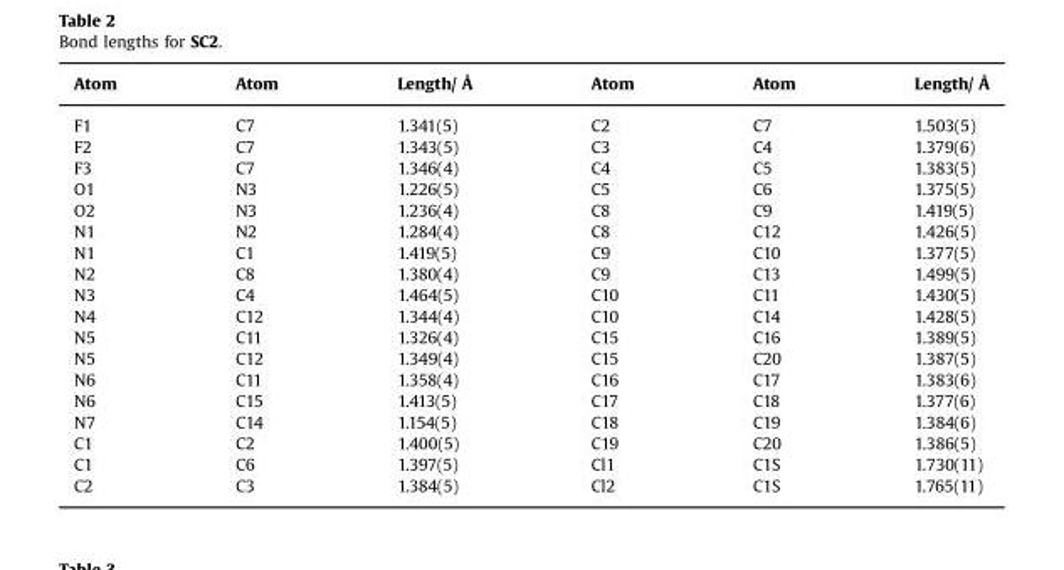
<table><thead><tr><td>Atom</td><td>Atom</td><td>Length/ Å</td><td>Atom</td><td>Atom</td><td>Length/ Å</td></tr></thead><tbody><tr><td>F1</td><td>C7</td><td>1.341(5)</td><td>C2</td><td>C7</td><td>1.503(5)</td></tr><tr><td>F2</td><td>C7</td><td>1.343(5)</td><td>C3</td><td>C4</td><td>1.379(6)</td></tr><tr><td>F3</td><td>C7</td><td>1.346(4)</td><td>C4</td><td>C5</td><td>1.383(5)</td></tr><tr><td>O1</td><td>N3</td><td>1.226(5)</td><td>C5</td><td>C6</td><td>1.375(5)</td></tr><tr><td>O2</td><td>N3</td><td>1.236(4)</td><td>C8</td><td>C9</td><td>1.419(5)</td></tr><tr><td>N1</td><td>N2</td><td>1.284(4)</td><td>C8</td><td>C12</td><td>1.426(5)</td></tr><tr><td>N1</td><td>C1</td><td>1.419(5)</td><td>C9</td><td>C10</td><td>1.377(5)</td></tr><tr><td>N2</td><td>C8</td><td>1.380(4)</td><td>C9</td><td>C13</td><td>1.499(5)</td></tr><tr><td>N3</td><td>C4</td><td>1.464(5)</td><td>C10</td><td>C11</td><td>1.430(5)</td></tr><tr><td>N4</td><td>C12</td><td>1.344(4)</td><td>C10</td><td>C14</td><td>1.428(5)</td></tr><tr><td>N5</td><td>C11</td><td>1.326(4)</td><td>C15</td><td>C16</td><td>1.389(5)</td></tr><tr><td>N5</td><td>C12</td><td>1.349(4)</td><td>C15</td><td>C20</td><td>1.387(5)</td></tr><tr><td>N6</td><td>C11</td><td>1.358(4)</td><td>C16</td><td>C17</td><td>1.383(6)</td></tr><tr><td>N6</td><td>C15</td><td>1.413(5)</td><td>C17</td><td>C18</td><td>1.377(6)</td></tr><tr><td>N7</td><td>C14</td><td>1.154(5)</td><td>C18</td><td>C19</td><td>1.384(6)</td></tr><tr><td>C1</td><td>C2</td><td>1.400(5)</td><td>C19</td><td>C20</td><td>1.386(5)</td></tr><tr><td>C1</td><td>C6</td><td>1.397(5)</td><td>Cl1</td><td>C1S</td><td>1.730(11)</td></tr><tr><td>C2</td><td>C3</td><td>1.384(5)</td><td>Cl2</td><td>C1S</td><td>1.765(11)</td></tr></tbody></table>